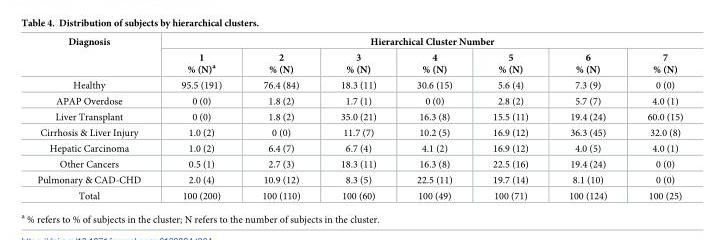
<table><thead><tr><td rowspan="2">Diagnosis</td><td colspan="7">Hierarchical Cluster Number</td></tr><tr><td>1 % (N)<sup>a</sup></td><td>2 % (N)</td><td>3 % (N)</td><td>4 % (N)</td><td>5 % (N)</td><td>6 % (N)</td><td>7 % (N)</td></tr></thead><tbody><tr><td>Healthy</td><td>95.5 (191)</td><td>76.4 (84)</td><td>18.3 (11)</td><td>30.6 (15)</td><td>5.6 (4)</td><td>7.3 (9)</td><td>0 (0)</td></tr><tr><td>APAP Overdose</td><td>0 (0)</td><td>1.8 (2)</td><td>1.7 (1)</td><td>0 (0)</td><td>2.8 (2)</td><td>5.7 (7)</td><td>4.0 (1)</td></tr><tr><td>Liver Transplant</td><td>0 (0)</td><td>1.8 (2)</td><td>35.0 (21)</td><td>16.3 (8)</td><td>15.5 (11)</td><td>19.4 (24)</td><td>60.0 (15)</td></tr><tr><td>Cirrhosis &amp; Liver Injury</td><td>1.0 (2)</td><td>0 (0)</td><td>11.7 (7)</td><td>10.2 (5)</td><td>16.9 (12)</td><td>36.3 (45)</td><td>32.0 (8)</td></tr><tr><td>Hepatic Carcinoma</td><td>1.0 (2)</td><td>6.4 (7)</td><td>6.7 (4)</td><td>4.1 (2)</td><td>16.9 (12)</td><td>4.0 (5)</td><td>4.0 (1)</td></tr><tr><td>Other Cancers</td><td>0.5 (1)</td><td>2.7 (3)</td><td>18.3 (11)</td><td>16.3 (8)</td><td>22.5 (16)</td><td>19.4 (24)</td><td>0 (0)</td></tr><tr><td>Pulmonary &amp; CAD-CHD</td><td>2.0 (4)</td><td>10.9 (12)</td><td>8.3 (5)</td><td>22.5 (11)</td><td>19.7 (14)</td><td>8.1 (10)</td><td>0 (0)</td></tr><tr><td>Total</td><td>100 (200)</td><td>100 (110)</td><td>100 (60)</td><td>100 (49)</td><td>100 (71)</td><td>100 (124)</td><td>100 (25)</td></tr></tbody></table>